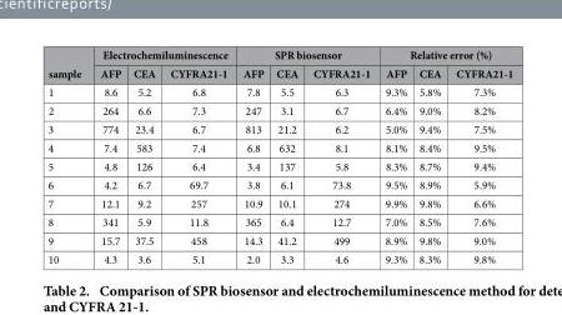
<table><thead><tr><td rowspan="2">sample</td><td colspan="3">Electrochemiluminescence</td><td colspan="3">SPR biosensor</td><td colspan="3">Relative error (%)</td></tr><tr><td>AFP</td><td>CEA</td><td>CYFRA21-1</td><td>AFP</td><td>CEA</td><td>CYFRA21-1</td><td>AFP</td><td>CEA</td><td>CYFRA21-1</td></tr></thead><tbody><tr><td>1</td><td>8.6</td><td>5.2</td><td>6.8</td><td>7.8</td><td>5.5</td><td>6.3</td><td>9.3%</td><td>5.8%</td><td>7.3%</td></tr><tr><td>2</td><td>264</td><td>6.6</td><td>7.3</td><td>247</td><td>3.1</td><td>6.7</td><td>6.4%</td><td>9.0%</td><td>8.2%</td></tr><tr><td>3</td><td>774</td><td>23.4</td><td>6.7</td><td>813</td><td>21.2</td><td>6.2</td><td>5.0%</td><td>9.4%</td><td>7.5%</td></tr><tr><td>4</td><td>7.4</td><td>583</td><td>7.4</td><td>6.8</td><td>632</td><td>8.1</td><td>8.1%</td><td>8.4%</td><td>9.5%</td></tr><tr><td>5</td><td>4.8</td><td>126</td><td>6.4</td><td>3.4</td><td>137</td><td>5.8</td><td>8.3%</td><td>8.7%</td><td>9.4%</td></tr><tr><td>6</td><td>4.2</td><td>6.7</td><td>69.7</td><td>3.8</td><td>6.1</td><td>73.8</td><td>9.5%</td><td>8.9%</td><td>5.9%</td></tr><tr><td>7</td><td>12.1</td><td>9.2</td><td>257</td><td>10.9</td><td>10.1</td><td>274</td><td>9.9%</td><td>9.8%</td><td>6.6%</td></tr><tr><td>8</td><td>341</td><td>5.9</td><td>11.8</td><td>365</td><td>6.4</td><td>12.7</td><td>7.0%</td><td>8.5%</td><td>7.6%</td></tr><tr><td>9</td><td>15.7</td><td>37.5</td><td>458</td><td>14.3</td><td>41.2</td><td>499</td><td>8.9%</td><td>9.8%</td><td>9.0%</td></tr><tr><td>10</td><td>4.3</td><td>3.6</td><td>5.1</td><td>2.0</td><td>3.3</td><td>4.6</td><td>9.3%</td><td>8.3%</td><td>9.8%</td></tr></tbody></table>